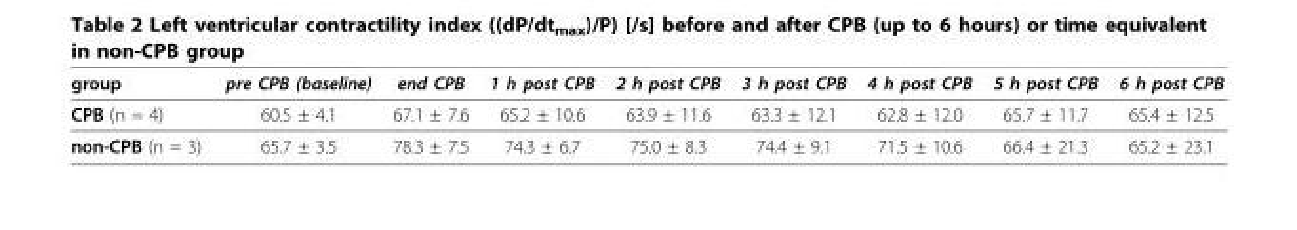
<table><thead><tr><td>group</td><td>pre CPB (baseline)</td><td>end CPB</td><td>1 h post CPB</td><td>2 h post CPB</td><td>3 h post CPB</td><td>4 h post CPB</td><td>5 h post CPB</td><td>6 h post CPB</td></tr></thead><tbody><tr><td>CPB (n = 4)</td><td>60.5 ± 4.1</td><td>67.1 ± 7.6</td><td>65.2 ± 10.6</td><td>63.9 ± 11.6</td><td>63.3 ± 12.1</td><td>62.8 ± 12.0</td><td>65.7 ± 11.7</td><td>65.4 ± 12.5</td></tr><tr><td>non-CPB (n = 3)</td><td>65.7 ± 3.5</td><td>78.3 ± 7.5</td><td>74.3 ± 6.7</td><td>75.0 ± 8.3</td><td>74.4 ± 9.1</td><td>71.5 ± 10.6</td><td>66.4 ± 21.3</td><td>65.2 ± 23.1</td></tr></tbody></table>